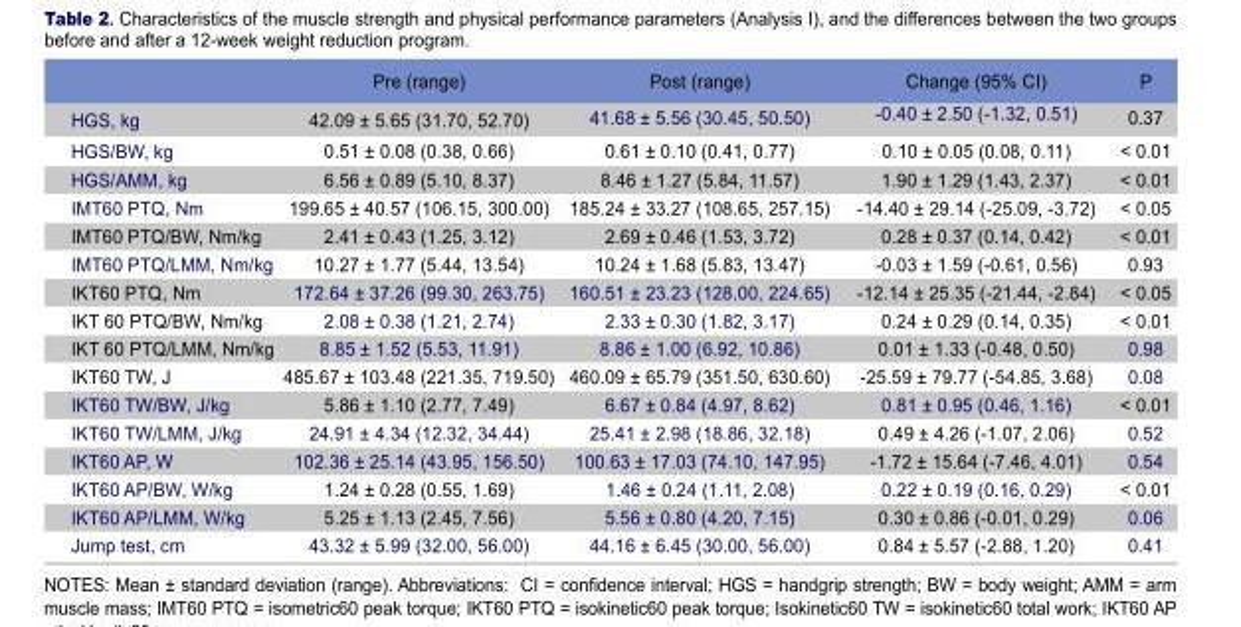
<table><thead><tr><td></td><td>Pre (range)</td><td>Post (range)</td><td>Change (95% CI)</td><td>P</td></tr></thead><tbody><tr><td>HGS, kg</td><td>42.09 ± 5.65 (31.70, 52.70)</td><td>41.68 ± 5.56 (30.45, 50.50)</td><td>-0.40 ± 2.50 (-1.32, 0.51)</td><td>0.37</td></tr><tr><td>HGS/BW, kg</td><td>0.51 ± 0.08 (0.38, 0.66)</td><td>0.61 ± 0.10 (0.41, 0.77)</td><td>0.10 ± 0.05 (0.08, 0.11)</td><td>&lt; 0.01</td></tr><tr><td>HGS/AMM, kg</td><td>6.56 ± 0.89 (5.10, 8.37)</td><td>8.46 ± 1.27 (5.84, 11.57)</td><td>1.90 ± 1.29 (1.43, 2.37)</td><td>&lt; 0.01</td></tr><tr><td>IMT60 PTQ, Nm</td><td>199.65 ± 40.57 (106.15, 300.00)</td><td>185.24 ± 33.27 (108.65, 257.15)</td><td>-14.40 ± 29.14 (-25.09, -3.72)</td><td>&lt; 0.05</td></tr><tr><td>IMT60 PTQ/BW, Nm/kg</td><td>2.41 ± 0.43 (1.25, 3.12)</td><td>2.69 ± 0.46 (1.53, 3.72)</td><td>0.28 ± 0.37 (0.14, 0.42)</td><td>&lt; 0.01</td></tr><tr><td>IMT60 PTQ/LMM, Nm/kg</td><td>10.27 ± 1.77 (5.44, 13.54)</td><td>10.24 ± 1.68 (5.83, 13.47)</td><td>-0.03 ± 1.59 (-0.61, 0.56)</td><td>0.93</td></tr><tr><td>IKT60 PTQ, Nm</td><td>172.64 ± 37.26 (99.30, 263.75)</td><td>160.51 ± 23.23 (128.00, 224.65)</td><td>-12.14 ± 25.35 (-21.44, -2.84)</td><td>&lt; 0.05</td></tr><tr><td>IKT 60 PTQ/BW, Nm/kg</td><td>2.08 ± 0.38 (1.21, 2.74)</td><td>2.33 ± 0.30 (1.82, 3.17)</td><td>0.24 ± 0.29 (0.14, 0.35)</td><td>&lt; 0.01</td></tr><tr><td>IKT 60 PTQ/LMM, Nm/kg</td><td>8.85 ± 1.52 (5.53, 11.91)</td><td>8.86 ± 1.00 (6.92, 10.86)</td><td>0.01 ± 1.33 (-0.48, 0.50)</td><td>0.98</td></tr><tr><td>IKT60 TW, J</td><td>485.67 ± 103.48 (221.35, 719.50)</td><td>460.09 ± 65.79 (351.50, 630.60)</td><td>-25.59 ± 79.77 (-54.85, 3.68)</td><td>0.08</td></tr><tr><td>IKT60 TW/BW, J/kg</td><td>5.86 ± 1.10 (2.77, 7.49)</td><td>6.67 ± 0.84 (4.97, 8.62)</td><td>0.81 ± 0.95 (0.46, 1.16)</td><td>&lt; 0.01</td></tr><tr><td>IKT60 TW/LMM, J/kg</td><td>24.91 ± 4.34 (12.32, 34.44)</td><td>25.41 ± 2.98 (18.86, 32.18)</td><td>0.49 ± 4.26 (-1.07, 2.06)</td><td>0.52</td></tr><tr><td>IKT60 AP, W</td><td>102.36 ± 25.14 (43.95, 156.50)</td><td>100.63 ± 17.03 (74.10, 147.95)</td><td>-1.72 ± 15.64 (-7.46, 4.01)</td><td>0.54</td></tr><tr><td>IKT60 AP/BW, W/kg</td><td>1.24 ± 0.28 (0.55, 1.69)</td><td>1.46 ± 0.24 (1.11, 2.08)</td><td>0.22 ± 0.19 (0.16, 0.29)</td><td>&lt; 0.01</td></tr><tr><td>IKT60 AP/LMM, W/kg</td><td>5.25 ± 1.13 (2.45, 7.56)</td><td>5.56 ± 0.80 (4.20, 7.15)</td><td>0.30 ± 0.86 (-0.01, 0.29)</td><td>0.06</td></tr><tr><td>Jump test, cm</td><td>43.32 ± 5.99 (32.00, 56.00)</td><td>44.16 ± 6.45 (30.00, 56.00)</td><td>0.84 ± 5.57 (-2.88, 1.20)</td><td>0.41</td></tr></tbody></table>